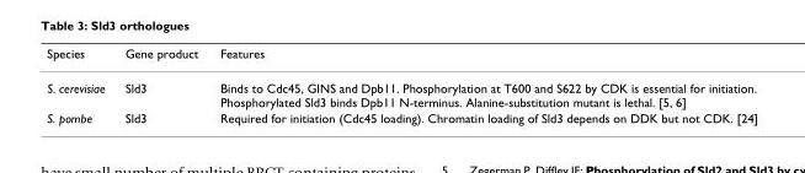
<table><thead><tr><td>Species</td><td>Gene product</td><td>Features</td></tr></thead><tbody><tr><td>S. cerevisiae</td><td>Sld3</td><td>Binds to Cdc45, GINS and Dpb11. Phosphorylation at T600 and S622 by CDK is essential for initiation. Phosphorylated Sld3 binds Dpb11 N-terminus. Alanine-substitution mutant is lethal. [5, 6]</td></tr><tr><td>S. pombe</td><td>Sld3</td><td>Required for initiation (Cdc45 loading). Chromatin loading of Sld3 depends on DDK but not CDK. [24]</td></tr></tbody></table>